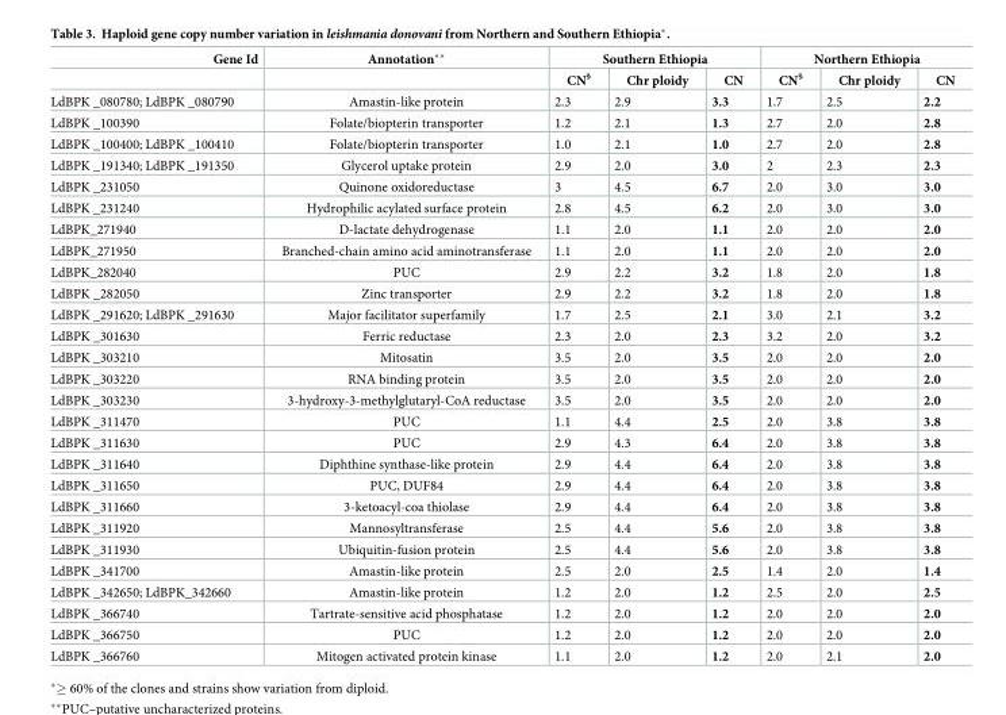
<table><thead><tr><td rowspan="2">Gene Id</td><td rowspan="2">Annotation**</td><td colspan="3">Southern Ethiopia</td><td colspan="3">Northern Ethiopia</td></tr><tr><td>CN<sup>§</sup></td><td>Chr ploidy</td><td>CN</td><td>CN<sup>§</sup></td><td>Chr ploidy</td><td>CN</td></tr></thead><tbody><tr><td>LdBPK _080780; LdBPK _080790</td><td>Amastin-like protein</td><td>2.3</td><td>2.9</td><td>3.3</td><td>1.7</td><td>2.5</td><td>2.2</td></tr><tr><td>LdBPK _100390</td><td>Folate/biopterin transporter</td><td>1.2</td><td>2.1</td><td>1.3</td><td>2.7</td><td>2.0</td><td>2.8</td></tr><tr><td>LdBPK _100400; LdBPK _100410</td><td>Folate/biopterin transporter</td><td>1.0</td><td>2.1</td><td>1.0</td><td>2.7</td><td>2.0</td><td>2.8</td></tr><tr><td>LdBPK _191340; LdBPK _191350</td><td>Glycerol uptake protein</td><td>2.9</td><td>2.0</td><td>3.0</td><td>2</td><td>2.3</td><td>2.3</td></tr><tr><td>LdBPK _231050</td><td>Quinone oxidoreductase</td><td>3</td><td>4.5</td><td>6.7</td><td>2.0</td><td>3.0</td><td>3.0</td></tr><tr><td>LdBPK _231240</td><td>Hydrophilic acylated surface protein</td><td>2.8</td><td>4.5</td><td>6.2</td><td>2.0</td><td>3.0</td><td>3.0</td></tr><tr><td>LdBPK_271940</td><td>D-lactate dehydrogenase</td><td>1.1</td><td>2.0</td><td>1.1</td><td>2.0</td><td>2.0</td><td>2.0</td></tr><tr><td>LdBPK_271950</td><td>Branched-chain amino acid aminotransferase</td><td>1.1</td><td>2.0</td><td>1.1</td><td>2.0</td><td>2.0</td><td>2.0</td></tr><tr><td>LdBPK_282040</td><td>PUC</td><td>2.9</td><td>2.2</td><td>3.2</td><td>1.8</td><td>2.0</td><td>1.8</td></tr><tr><td>LdBPK _282050</td><td>Zinc transporter</td><td>2.9</td><td>2.2</td><td>3.2</td><td>1.8</td><td>2.0</td><td>1.8</td></tr><tr><td>LdBPK _291620; LdBPK _291630</td><td>Major facilitator superfamily</td><td>1.7</td><td>2.5</td><td>2.1</td><td>3.0</td><td>2.1</td><td>3.2</td></tr><tr><td>LdBPK _301630</td><td>Ferric reductase</td><td>2.3</td><td>2.0</td><td>2.3</td><td>3.2</td><td>2.0</td><td>3.2</td></tr><tr><td>LdBPK _303210</td><td>Mitosatin</td><td>3.5</td><td>2.0</td><td>3.5</td><td>2.0</td><td>2.0</td><td>2.0</td></tr><tr><td>LdBPK _303220</td><td>RNA binding protein</td><td>3.5</td><td>2.0</td><td>3.5</td><td>2.0</td><td>2.0</td><td>2.0</td></tr><tr><td>LdBPK _303230</td><td>3-hydroxy-3-methylglutaryl-CoA reductase</td><td>3.5</td><td>2.0</td><td>3.5</td><td>2.0</td><td>2.0</td><td>2.0</td></tr><tr><td>LdBPK _311470</td><td>PUC</td><td>1.1</td><td>4.4</td><td>2.5</td><td>2.0</td><td>3.8</td><td>3.8</td></tr><tr><td>LdBPK _311630</td><td>PUC</td><td>2.9</td><td>4.3</td><td>6.4</td><td>2.0</td><td>3.8</td><td>3.8</td></tr><tr><td>LdBPK _311640</td><td>Diphthine synthase-like protein</td><td>2.9</td><td>4.4</td><td>6.4</td><td>2.0</td><td>3.8</td><td>3.8</td></tr><tr><td>LdBPK _311650</td><td>PUC, DUF84</td><td>2.9</td><td>4.4</td><td>6.4</td><td>2.0</td><td>3.8</td><td>3.8</td></tr><tr><td>LdBPK _311660</td><td>3-ketoacyl-coa thiolase</td><td>2.9</td><td>4.4</td><td>6.4</td><td>2.0</td><td>3.8</td><td>3.8</td></tr><tr><td>LdBPK _311920</td><td>Mannosyltransferase</td><td>2.5</td><td>4.4</td><td>5.6</td><td>2.0</td><td>3.8</td><td>3.8</td></tr><tr><td>LdBPK _311930</td><td>Ubiquitin-fusion protein</td><td>2.5</td><td>4.4</td><td>5.6</td><td>2.0</td><td>3.8</td><td>3.8</td></tr><tr><td>LdBPK _341700</td><td>Amastin-like protein</td><td>2.5</td><td>2.0</td><td>2.5</td><td>1.4</td><td>2.0</td><td>1.4</td></tr><tr><td>LdBPK _342650; LdBPK_342660</td><td>Amastin-like protein</td><td>1.2</td><td>2.0</td><td>1.2</td><td>2.5</td><td>2.0</td><td>2.5</td></tr><tr><td>LdBPK _366740</td><td>Tartrate-sensitive acid phosphatase</td><td>1.2</td><td>2.0</td><td>1.2</td><td>2.0</td><td>2.0</td><td>2.0</td></tr><tr><td>LdBPK _366750</td><td>PUC</td><td>1.2</td><td>2.0</td><td>1.2</td><td>2.0</td><td>2.0</td><td>2.0</td></tr><tr><td>LdBPK _366760</td><td>Mitogen activated protein kinase</td><td>1.1</td><td>2.0</td><td>1.2</td><td>2.0</td><td>2.1</td><td>2.0</td></tr></tbody></table>